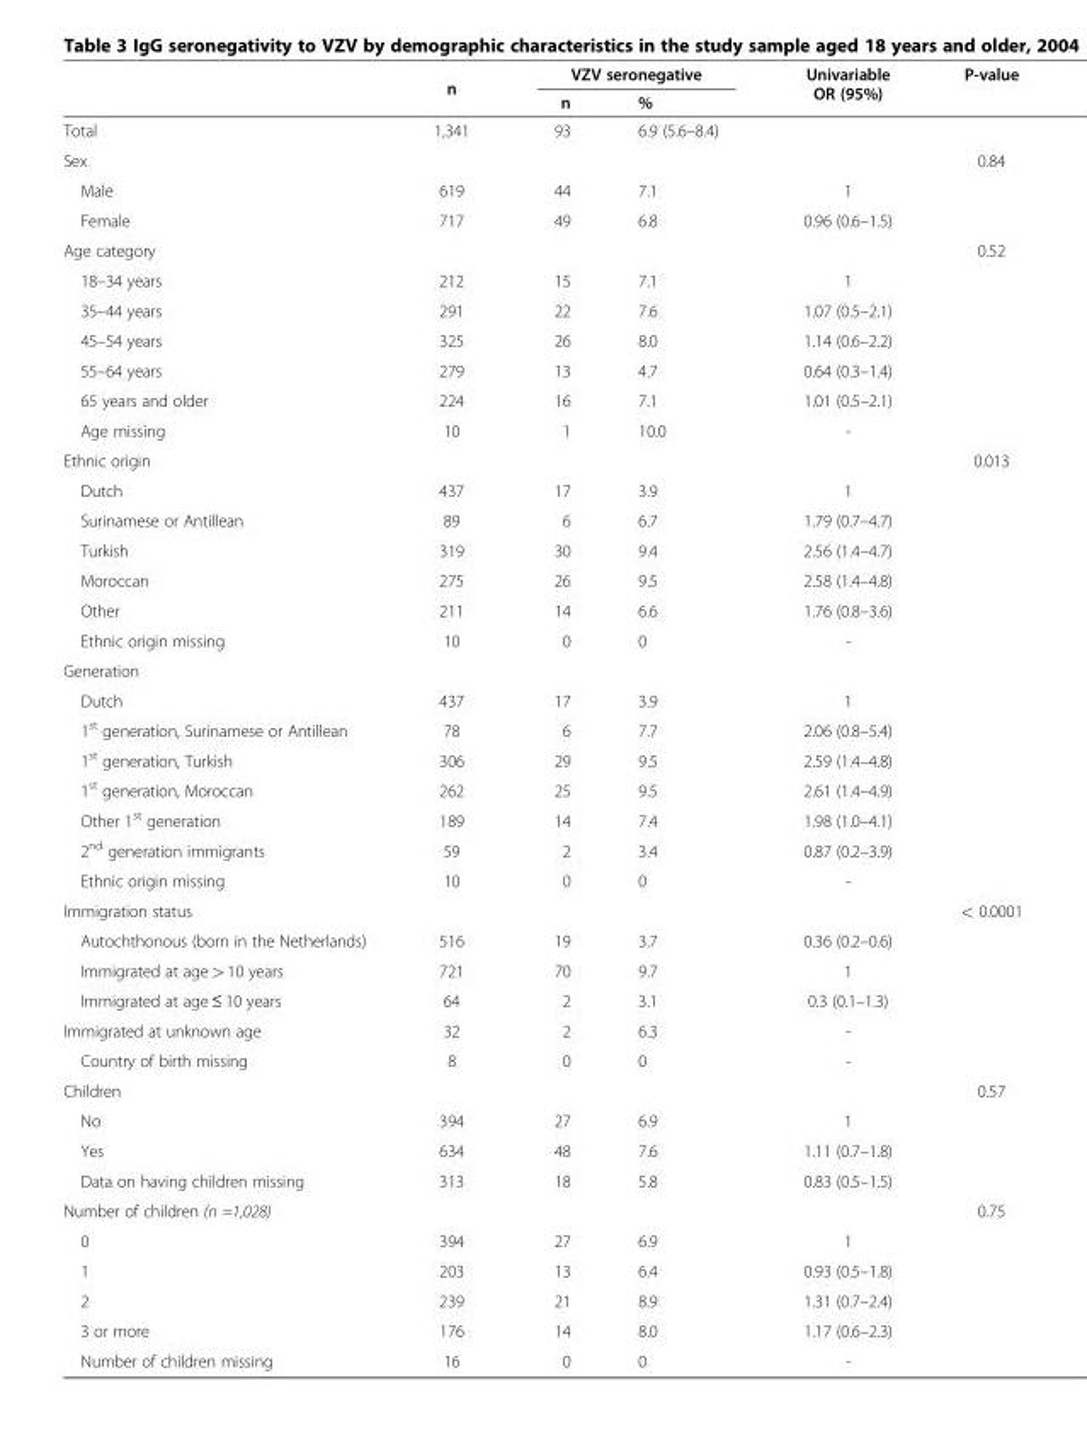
<table><thead><tr><td rowspan="2"></td><td rowspan="2">n</td><td colspan="2">VZV seronegative</td><td rowspan="2">Univariable OR (95%)</td><td rowspan="2">P-value</td></tr><tr><td>n</td><td>%</td></tr></thead><tbody><tr><td>Total</td><td>1,341</td><td>93</td><td>6.9 (5.6–8.4)</td><td></td><td></td></tr><tr><td>Sex</td><td></td><td></td><td></td><td></td><td>0.84</td></tr><tr><td>Male</td><td>619</td><td>44</td><td>7.1</td><td>1</td><td></td></tr><tr><td>Female</td><td>717</td><td>49</td><td>6.8</td><td>0.96 (0.6–1.5)</td><td></td></tr><tr><td>Age category</td><td></td><td></td><td></td><td></td><td>0.52</td></tr><tr><td>18–34 years</td><td>212</td><td>15</td><td>7.1</td><td>1</td><td></td></tr><tr><td>35–44 years</td><td>291</td><td>22</td><td>7.6</td><td>1.07 (0.5–2.1)</td><td></td></tr><tr><td>45–54 years</td><td>325</td><td>26</td><td>8.0</td><td>1.14 (0.6–2.2)</td><td></td></tr><tr><td>55–64 years</td><td>279</td><td>13</td><td>4.7</td><td>0.64 (0.3–1.4)</td><td></td></tr><tr><td>65 years and older</td><td>224</td><td>16</td><td>7.1</td><td>1.01 (0.5–2.1)</td><td></td></tr><tr><td>Age missing</td><td>10</td><td>1</td><td>10.0</td><td>-</td><td></td></tr><tr><td>Ethnic origin</td><td></td><td></td><td></td><td></td><td>0.013</td></tr><tr><td>Dutch</td><td>437</td><td>17</td><td>3.9</td><td>1</td><td></td></tr><tr><td>Surinamese or Antillean</td><td>89</td><td>6</td><td>6.7</td><td>1.79 (0.7–4.7)</td><td></td></tr><tr><td>Turkish</td><td>319</td><td>30</td><td>9.4</td><td>2.56 (1.4–4.7)</td><td></td></tr><tr><td>Moroccan</td><td>275</td><td>26</td><td>9.5</td><td>2.58 (1.4–4.8)</td><td></td></tr><tr><td>Other</td><td>211</td><td>14</td><td>6.6</td><td>1.76 (0.8–3.6)</td><td></td></tr><tr><td>Ethnic origin missing</td><td>10</td><td>0</td><td>0</td><td>-</td><td></td></tr><tr><td colspan="6">Generation</td></tr><tr><td>Dutch</td><td>437</td><td>17</td><td>3.9</td><td>1</td><td></td></tr><tr><td>1<sup>st</sup> generation, Surinamese or Antillean</td><td>78</td><td>6</td><td>7.7</td><td>2.06 (0.8–5.4)</td><td></td></tr><tr><td>1<sup>st</sup> generation, Turkish</td><td>306</td><td>29</td><td>9.5</td><td>2.59 (1.4–4.8)</td><td></td></tr><tr><td>1<sup>st</sup> generation, Moroccan</td><td>262</td><td>25</td><td>9.5</td><td>2.61 (1.4–4.9)</td><td></td></tr><tr><td>Other 1<sup>st</sup> generation</td><td>189</td><td>14</td><td>7.4</td><td>1.98 (1.0–4.1)</td><td></td></tr><tr><td>2<sup>nd</sup> generation immigrants</td><td>59</td><td>2</td><td>3.4</td><td>0.87 (0.2–3.9)</td><td></td></tr><tr><td>Ethnic origin missing</td><td>10</td><td>0</td><td>0</td><td>-</td><td></td></tr><tr><td>Immigration status</td><td></td><td></td><td></td><td></td><td>&lt; 0.0001</td></tr><tr><td>Autochthonous (born in the Netherlands)</td><td>516</td><td>19</td><td>3.7</td><td>0.36 (0.2–0.6)</td><td></td></tr><tr><td>Immigrated at age &gt; 10 years</td><td>721</td><td>70</td><td>9.7</td><td>1</td><td></td></tr><tr><td>Immigrated at age ≤ 10 years</td><td>64</td><td>2</td><td>3.1</td><td>0.3 (0.1–1.3)</td><td></td></tr><tr><td>Immigrated at unknown age</td><td>32</td><td>2</td><td>6.3</td><td>-</td><td></td></tr><tr><td>Country of birth missing</td><td>8</td><td>0</td><td>0</td><td>-</td><td></td></tr><tr><td>Children</td><td></td><td></td><td></td><td></td><td>0.57</td></tr><tr><td>No</td><td>394</td><td>27</td><td>6.9</td><td>1</td><td></td></tr><tr><td>Yes</td><td>634</td><td>48</td><td>7.6</td><td>1.11 (0.7–1.8)</td><td></td></tr><tr><td>Data on having children missing</td><td>313</td><td>18</td><td>5.8</td><td>0.83 (0.5–1.5)</td><td></td></tr><tr><td>Number of children (n =1,028)</td><td></td><td></td><td></td><td></td><td>0.75</td></tr><tr><td>0</td><td>394</td><td>27</td><td>6.9</td><td>1</td><td></td></tr><tr><td>1</td><td>203</td><td>13</td><td>6.4</td><td>0.93 (0.5–1.8)</td><td></td></tr><tr><td>2</td><td>239</td><td>21</td><td>8.9</td><td>1.31 (0.7–2.4)</td><td></td></tr><tr><td>3 or more</td><td>176</td><td>14</td><td>8.0</td><td>1.17 (0.6–2.3)</td><td></td></tr><tr><td>Number of children missing</td><td>16</td><td>0</td><td>0</td><td>-</td><td></td></tr></tbody></table>